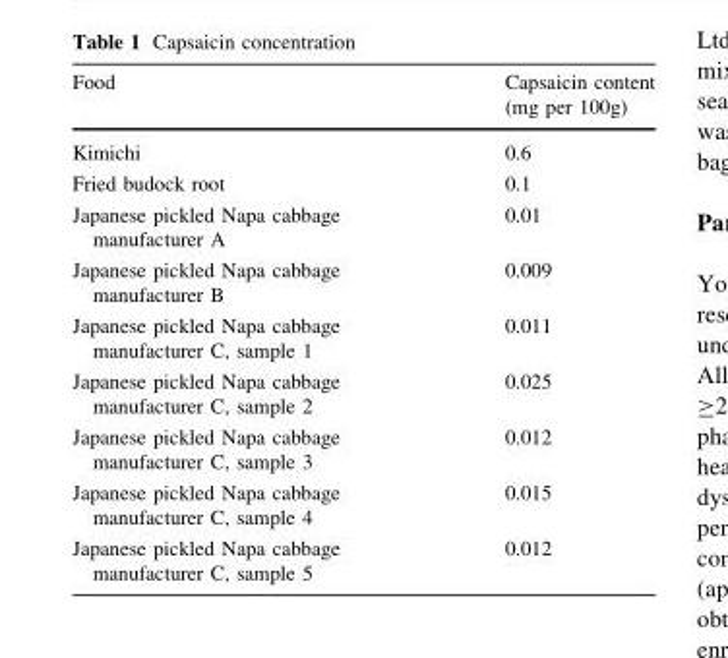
<table><thead><tr><td>Food</td><td>Capsaicin content (mg per 100g)</td></tr></thead><tbody><tr><td>Kimichi</td><td>0.6</td></tr><tr><td>Fried budock root</td><td>0.1</td></tr><tr><td>Japanese pickled Napa cabbage manufacturer A</td><td>0.01</td></tr><tr><td>Japanese pickled Napa cabbage manufacturer B</td><td>0.009</td></tr><tr><td>Japanese pickled Napa cabbage manufacturer C, sample 1</td><td>0.011</td></tr><tr><td>Japanese pickled Napa cabbage manufacturer C, sample 2</td><td>0.025</td></tr><tr><td>Japanese pickled Napa cabbage manufacturer C, sample 3</td><td>0.012</td></tr><tr><td>Japanese pickled Napa cabbage manufacturer C, sample 4</td><td>0.015</td></tr><tr><td>Japanese pickled Napa cabbage manufacturer C, sample 5</td><td>0.012</td></tr></tbody></table>